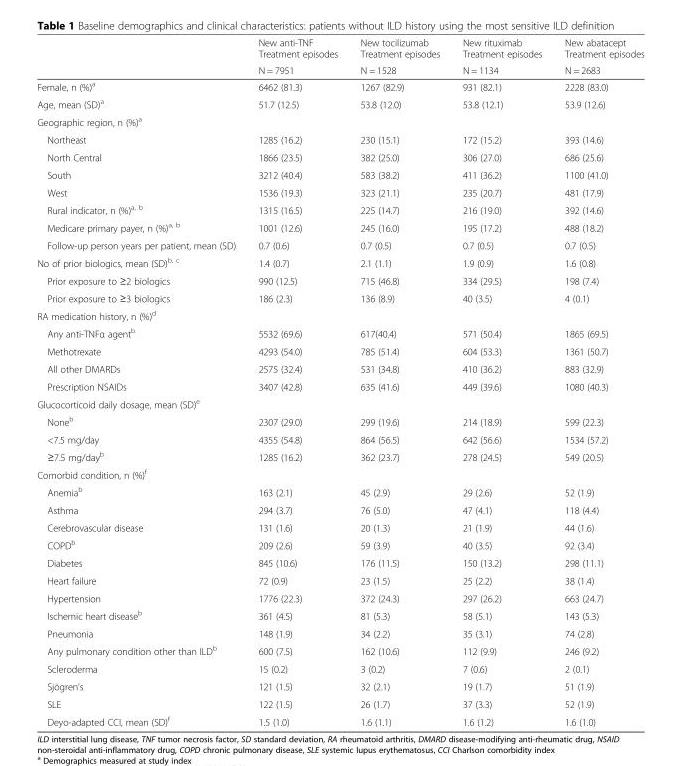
<table><thead><tr><td rowspan="2"></td><td rowspan="2">New anti-TNF Treatment episodes N = 7951</td><td rowspan="2">New tocilizumab Treatment episodes N = 1528</td><td rowspan="2">New rituximab Treatment episodes N = 1134</td><td rowspan="2">New abatacept Treatment episodes N = 2683</td></tr><tr></tr></thead><tbody><tr><td>Female, n (%)<sup>a</sup></td><td>6462 (81.3)</td><td>1267 (82.9)</td><td>931 (82.1)</td><td>2228 (83.0)</td></tr><tr><td>Age, mean (SD)<sup>a</sup></td><td>51.7 (12.5)</td><td>53.8 (12.0)</td><td>53.8 (12.1)</td><td>53.9 (12.6)</td></tr><tr><td colspan="5">Geographic region, n (%)<sup>a</sup></td></tr><tr><td>Northeast</td><td>1285 (16.2)</td><td>230 (15.1)</td><td>172 (15.2)</td><td>393 (14.6)</td></tr><tr><td>North Central</td><td>1866 (23.5)</td><td>382 (25.0)</td><td>306 (27.0)</td><td>686 (25.6)</td></tr><tr><td>South</td><td>3212 (40.4)</td><td>583 (38.2)</td><td>411 (36.2)</td><td>1100 (41.0)</td></tr><tr><td>West</td><td>1536 (19.3)</td><td>323 (21.1)</td><td>235 (20.7)</td><td>481 (17.9)</td></tr><tr><td>Rural indicator, n (%)<sup>a, b</sup></td><td>1315 (16.5)</td><td>225 (14.7)</td><td>216 (19.0)</td><td>392 (14.6)</td></tr><tr><td>Medicare primary payer, n (%)<sup>a, b</sup></td><td>1001 (12.6)</td><td>245 (16.0)</td><td>195 (17.2)</td><td>488 (18.2)</td></tr><tr><td>Follow-up person years per patient, mean (SD)</td><td>0.7 (0.6)</td><td>0.7 (0.5)</td><td>0.7 (0.5)</td><td>0.7 (0.5)</td></tr><tr><td>No of prior biologics, mean (SD)<sup>b, c</sup></td><td>1.4 (0.7)</td><td>2.1 (1.1)</td><td>1.9 (0.9)</td><td>1.6 (0.8)</td></tr><tr><td>Prior exposure to ≥2 biologics</td><td>990 (12.5)</td><td>715 (46.8)</td><td>334 (29.5)</td><td>198 (7.4)</td></tr><tr><td>Prior exposure to ≥3 biologics</td><td>186 (2.3)</td><td>136 (8.9)</td><td>40 (3.5)</td><td>4 (0.1)</td></tr><tr><td colspan="5">RA medication history, n (%)<sup>d</sup></td></tr><tr><td>Any anti-TNFα agent<sup>b</sup></td><td>5532 (69.6)</td><td>617(40.4)</td><td>571 (50.4)</td><td>1865 (69.5)</td></tr><tr><td>Methotrexate</td><td>4293 (54.0)</td><td>785 (51.4)</td><td>604 (53.3)</td><td>1361 (50.7)</td></tr><tr><td>All other DMARDs</td><td>2575 (32.4)</td><td>531 (34.8)</td><td>410 (36.2)</td><td>883 (32.9)</td></tr><tr><td>Prescription NSAIDs</td><td>3407 (42.8)</td><td>635 (41.6)</td><td>449 (39.6)</td><td>1080 (40.3)</td></tr><tr><td colspan="5">Glucocorticoid daily dosage, mean (SD)<sup>e</sup></td></tr><tr><td>None<sup>b</sup></td><td>2307 (29.0)</td><td>299 (19.6)</td><td>214 (18.9)</td><td>599 (22.3)</td></tr><tr><td>&lt;7.5 mg/day</td><td>4355 (54.8)</td><td>864 (56.5)</td><td>642 (56.6)</td><td>1534 (57.2)</td></tr><tr><td>≥7.5 mg/day<sup>b</sup></td><td>1285 (16.2)</td><td>362 (23.7)</td><td>278 (24.5)</td><td>549 (20.5)</td></tr><tr><td colspan="5">Comorbid condition, n (%)<sup>f</sup></td></tr><tr><td>Anemia<sup>b</sup></td><td>163 (2.1)</td><td>45 (2.9)</td><td>29 (2.6)</td><td>52 (1.9)</td></tr><tr><td>Asthma</td><td>294 (3.7)</td><td>76 (5.0)</td><td>47 (4.1)</td><td>118 (4.4)</td></tr><tr><td>Cerebrovascular disease</td><td>131 (1.6)</td><td>20 (1.3)</td><td>21 (1.9)</td><td>44 (1.6)</td></tr><tr><td>COPD<sup>b</sup></td><td>209 (2.6)</td><td>59 (3.9)</td><td>40 (3.5)</td><td>92 (3.4)</td></tr><tr><td>Diabetes</td><td>845 (10.6)</td><td>176 (11.5)</td><td>150 (13.2)</td><td>298 (11.1)</td></tr><tr><td>Heart failure</td><td>72 (0.9)</td><td>23 (1.5)</td><td>25 (2.2)</td><td>38 (1.4)</td></tr><tr><td>Hypertension</td><td>1776 (22.3)</td><td>372 (24.3)</td><td>297 (26.2)</td><td>663 (24.7)</td></tr><tr><td>Ischemic heart disease<sup>b</sup></td><td>361 (4.5)</td><td>81 (5.3)</td><td>58 (5.1)</td><td>143 (5.3)</td></tr><tr><td>Pneumonia</td><td>148 (1.9)</td><td>34 (2.2)</td><td>35 (3.1)</td><td>74 (2.8)</td></tr><tr><td>Any pulmonary condition other than ILD<sup>b</sup></td><td>600 (7.5)</td><td>162 (10.6)</td><td>112 (9.9)</td><td>246 (9.2)</td></tr><tr><td>Scleroderma</td><td>15 (0.2)</td><td>3 (0.2)</td><td>7 (0.6)</td><td>2 (0.1)</td></tr><tr><td>Sjögren’s</td><td>121 (1.5)</td><td>32 (2.1)</td><td>19 (1.7)</td><td>51 (1.9)</td></tr><tr><td>SLE</td><td>122 (1.5)</td><td>26 (1.7)</td><td>37 (3.3)</td><td>52 (1.9)</td></tr><tr><td>Deyo-adapted CCI, mean (SD)<sup>f</sup></td><td>1.5 (1.0)</td><td>1.6 (1.1)</td><td>1.6 (1.2)</td><td>1.6 (1.0)</td></tr></tbody></table>